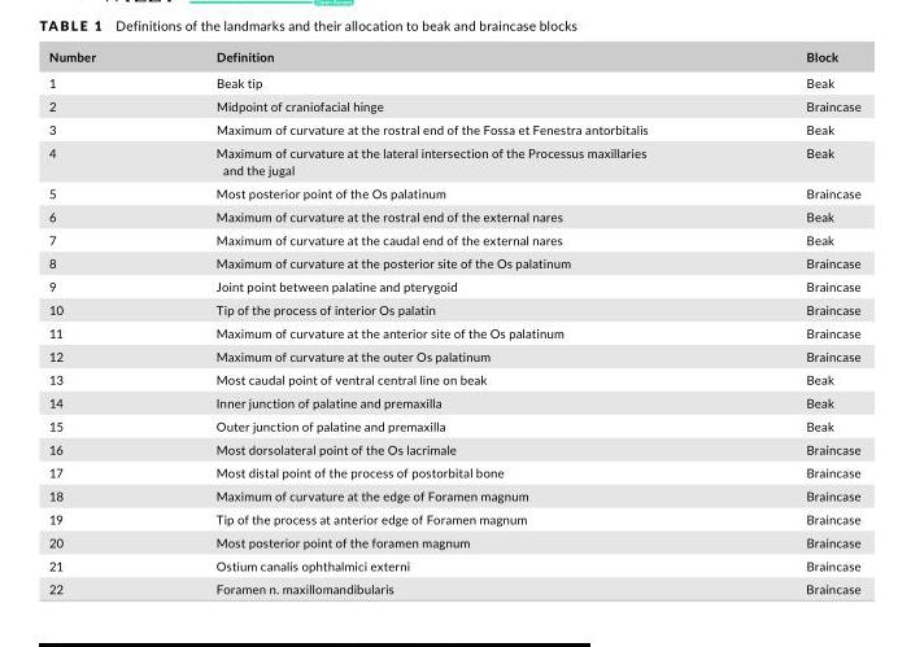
<table><thead><tr><td>Number</td><td>Definition</td><td>Block</td></tr></thead><tbody><tr><td>1</td><td>Beak tip</td><td>Beak</td></tr><tr><td>2</td><td>Midpoint of craniofacial hinge</td><td>Braincase</td></tr><tr><td>3</td><td>Maximum of curvature at the rostral end of the Fossa et Fenestra antorbitalis</td><td>Beak</td></tr><tr><td>4</td><td>Maximum of curvature at the lateral intersection of the Processus maxillaries and the jugal</td><td>Beak</td></tr><tr><td>5</td><td>Most posterior point of the Os palatinum</td><td>Braincase</td></tr><tr><td>6</td><td>Maximum of curvature at the rostral end of the external nares</td><td>Beak</td></tr><tr><td>7</td><td>Maximum of curvature at the caudal end of the external nares</td><td>Beak</td></tr><tr><td>8</td><td>Maximum of curvature at the posterior site of the Os palatinum</td><td>Braincase</td></tr><tr><td>9</td><td>Joint point between palatine and pterygoid</td><td>Braincase</td></tr><tr><td>10</td><td>Tip of the process of interior Os palatin</td><td>Braincase</td></tr><tr><td>11</td><td>Maximum of curvature at the anterior site of the Os palatinum</td><td>Braincase</td></tr><tr><td>12</td><td>Maximum of curvature at the outer Os palatinum</td><td>Braincase</td></tr><tr><td>13</td><td>Most caudal point of ventral central line on beak</td><td>Beak</td></tr><tr><td>14</td><td>Inner junction of palatine and premaxilla</td><td>Beak</td></tr><tr><td>15</td><td>Outer junction of palatine and premaxilla</td><td>Beak</td></tr><tr><td>16</td><td>Most dorsolateral point of the Os lacrimale</td><td>Braincase</td></tr><tr><td>17</td><td>Most distal point of the process of postorbital bone</td><td>Braincase</td></tr><tr><td>18</td><td>Maximum of curvature at the edge of Foramen magnum</td><td>Braincase</td></tr><tr><td>19</td><td>Tip of the process at anterior edge of Foramen magnum</td><td>Braincase</td></tr><tr><td>20</td><td>Most posterior point of the foramen magnum</td><td>Braincase</td></tr><tr><td>21</td><td>Ostium canalis ophthalmici externi</td><td>Braincase</td></tr><tr><td>22</td><td>Foramen n. maxillomandibularis</td><td>Braincase</td></tr></tbody></table>